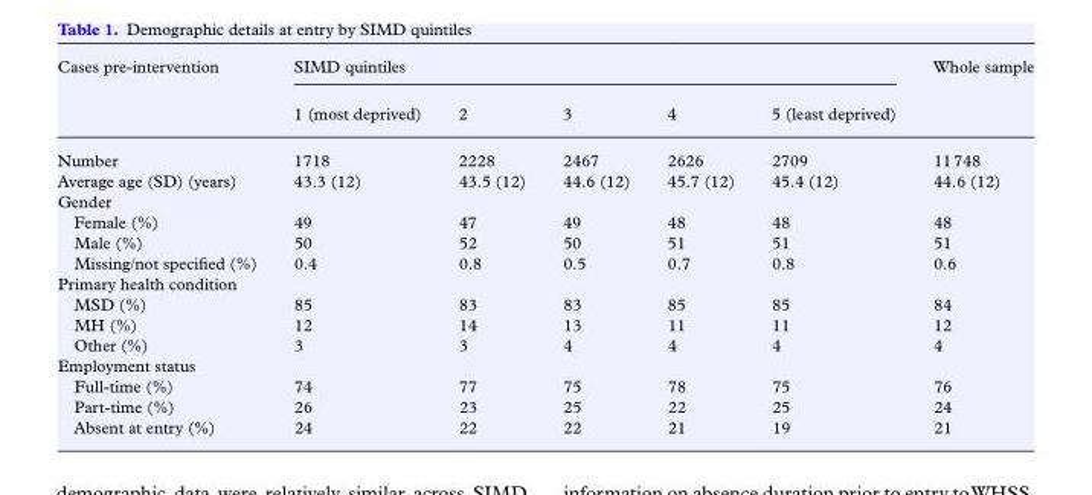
<table><thead><tr><td rowspan="2">Cases pre-intervention</td><td colspan="5">SIMD quintiles</td><td rowspan="2">Whole sample</td></tr><tr><td>1 (most deprived)</td><td>2</td><td>3</td><td>4</td><td>5 (least deprived)</td></tr></thead><tbody><tr><td>Number</td><td>1718</td><td>2228</td><td>2467</td><td>2626</td><td>2709</td><td>11 748</td></tr><tr><td>Average age (SD) (years)</td><td>43.3 (12)</td><td>43.5 (12)</td><td>44.6 (12)</td><td>45.7 (12)</td><td>45.4 (12)</td><td>44.6 (12)</td></tr><tr><td colspan="7">Gender</td></tr><tr><td>Female (%)</td><td>49</td><td>47</td><td>49</td><td>48</td><td>48</td><td>48</td></tr><tr><td>Male (%)</td><td>50</td><td>52</td><td>50</td><td>51</td><td>51</td><td>51</td></tr><tr><td>Missing/not specified (%)</td><td>0.4</td><td>0.8</td><td>0.5</td><td>0.7</td><td>0.8</td><td>0.6</td></tr><tr><td colspan="7">Primary health condition</td></tr><tr><td>MSD (%)</td><td>85</td><td>83</td><td>83</td><td>85</td><td>85</td><td>84</td></tr><tr><td>MH (%)</td><td>12</td><td>14</td><td>13</td><td>11</td><td>11</td><td>12</td></tr><tr><td>Other (%)</td><td>3</td><td>3</td><td>4</td><td>4</td><td>4</td><td>4</td></tr><tr><td colspan="7">Employment status</td></tr><tr><td>Full-time (%)</td><td>74</td><td>77</td><td>75</td><td>78</td><td>75</td><td>76</td></tr><tr><td>Part-time (%)</td><td>26</td><td>23</td><td>25</td><td>22</td><td>25</td><td>24</td></tr><tr><td>Absent at entry (%)</td><td>24</td><td>22</td><td>22</td><td>21</td><td>19</td><td>21</td></tr></tbody></table>